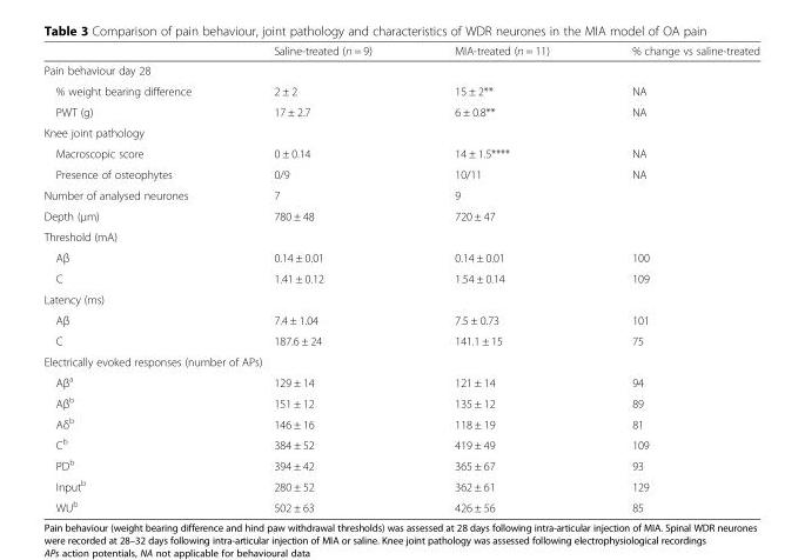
<table><thead><tr><td></td><td>Saline-treated (n = 9)</td><td>MIA-treated (n = 11)</td><td>% change vs saline-treated</td></tr></thead><tbody><tr><td colspan="4">Pain behaviour day 28</td></tr><tr><td>% weight bearing difference</td><td>2 ± 2</td><td>15 ± 2**</td><td>NA</td></tr><tr><td>PWT (g)</td><td>17 ± 2.7</td><td>6 ± 0.8**</td><td>NA</td></tr><tr><td colspan="4">Knee joint pathology</td></tr><tr><td>Macroscopic score</td><td>0 ± 0.14</td><td>14 ± 1.5****</td><td>NA</td></tr><tr><td>Presence of osteophytes</td><td>0/9</td><td>10/11</td><td>NA</td></tr><tr><td>Number of analysed neurones</td><td>7</td><td>9</td><td></td></tr><tr><td>Depth (μm)</td><td>780 ± 48</td><td>720 ± 47</td><td></td></tr><tr><td colspan="4">Threshold (mA)</td></tr><tr><td>Aβ</td><td>0.14 ± 0.01</td><td>0.14 ± 0.01</td><td>100</td></tr><tr><td>C</td><td>1.41 ± 0.12</td><td>1.54 ± 0.14</td><td>109</td></tr><tr><td colspan="4">Latency (ms)</td></tr><tr><td>Aβ</td><td>7.4 ± 1.04</td><td>7.5 ± 0.73</td><td>101</td></tr><tr><td>C</td><td>187.6 ± 24</td><td>141.1 ± 15</td><td>75</td></tr><tr><td colspan="4">Electrically evoked responses (number of APs)</td></tr><tr><td>Aβ<sup>a</sup></td><td>129 ± 14</td><td>121 ± 14</td><td>94</td></tr><tr><td>Aβ<sup>b</sup></td><td>151 ± 12</td><td>135 ± 12</td><td>89</td></tr><tr><td>Aδ<sup>b</sup></td><td>146 ± 16</td><td>118 ± 19</td><td>81</td></tr><tr><td>C<sup>b</sup></td><td>384 ± 52</td><td>419 ± 49</td><td>109</td></tr><tr><td>PD<sup>b</sup></td><td>394 ± 42</td><td>365 ± 67</td><td>93</td></tr><tr><td>Input<sup>b</sup></td><td>280 ± 52</td><td>362 ± 61</td><td>129</td></tr><tr><td>WU<sup>b</sup></td><td>502 ± 63</td><td>426 ± 56</td><td>85</td></tr></tbody></table>